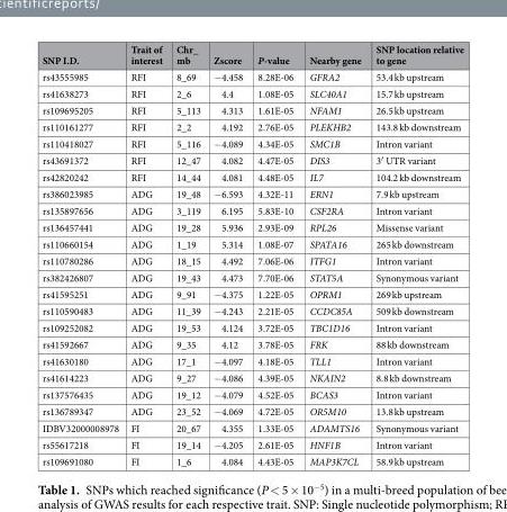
<table><thead><tr><td>SNP I.D.</td><td>Trait of interest</td><td>Chr_ mb</td><td>Zscore</td><td>P-value</td><td>Nearby gene</td><td>SNP location relative to gene</td></tr></thead><tbody><tr><td>rs43555985</td><td>RFI</td><td>8_69</td><td>−4.458</td><td>8.28E-06</td><td>GFRA2</td><td>53.4 kb upstream</td></tr><tr><td>rs41638273</td><td>RFI</td><td>2_6</td><td>4.4</td><td>1.08E-05</td><td>SLC40A1</td><td>15.7 kb upstream</td></tr><tr><td>rs109695205</td><td>RFI</td><td>5_113</td><td>4.313</td><td>1.61E-05</td><td>NFAM1</td><td>26.5 kb upstream</td></tr><tr><td>rs110161277</td><td>RFI</td><td>2_2</td><td>4.192</td><td>2.76E-05</td><td>PLEKHB2</td><td>143.8 kb downstream</td></tr><tr><td>rs110418027</td><td>RFI</td><td>5_116</td><td>−4.089</td><td>4.34E-05</td><td>SMC1B</td><td>Intron variant</td></tr><tr><td>rs43691372</td><td>RFI</td><td>12_47</td><td>4.082</td><td>4.47E-05</td><td>DIS3</td><td>3′ UTR variant</td></tr><tr><td>rs42820242</td><td>RFI</td><td>14_44</td><td>4.081</td><td>4.48E-05</td><td>IL7</td><td>104.2 kb downstream</td></tr><tr><td>rs386023985</td><td>ADG</td><td>19_48</td><td>−6.593</td><td>4.32E-11</td><td>ERN1</td><td>7.9 kb upstream</td></tr><tr><td>rs135897656</td><td>ADG</td><td>3_119</td><td>6.195</td><td>5.83E-10</td><td>CSF2RA</td><td>Intron variant</td></tr><tr><td>rs136457441</td><td>ADG</td><td>19_28</td><td>5.936</td><td>2.93E-09</td><td>RPL26</td><td>Missense variant</td></tr><tr><td>rs110660154</td><td>ADG</td><td>1_19</td><td>5.314</td><td>1.08E-07</td><td>SPATA16</td><td>265 kb downstream</td></tr><tr><td>rs110780286</td><td>ADG</td><td>18_15</td><td>4.492</td><td>7.06E-06</td><td>ITFG1</td><td>Intron variant</td></tr><tr><td>rs382426807</td><td>ADG</td><td>19_43</td><td>4.473</td><td>7.70E-06</td><td>STAT5A</td><td>Synonymous variant</td></tr><tr><td>rs41595251</td><td>ADG</td><td>9_91</td><td>−4.375</td><td>1.22E-05</td><td>OPRM1</td><td>269 kb upstream</td></tr><tr><td>rs110590483</td><td>ADG</td><td>11_39</td><td>−4.243</td><td>2.21E-05</td><td>CCDC85A</td><td>509 kb downstream</td></tr><tr><td>rs109252082</td><td>ADG</td><td>19_53</td><td>4.124</td><td>3.72E-05</td><td>TBC1D16</td><td>Intron variant</td></tr><tr><td>rs41592667</td><td>ADG</td><td>9_35</td><td>4.12</td><td>3.78E-05</td><td>FRK</td><td>88 kb downstream</td></tr><tr><td>rs41630180</td><td>ADG</td><td>17_1</td><td>−4.097</td><td>4.18E-05</td><td>TLL1</td><td>Intron variant</td></tr><tr><td>rs41614223</td><td>ADG</td><td>9_27</td><td>−4.086</td><td>4.39E-05</td><td>NKAIN2</td><td>8.8 kb downstream</td></tr><tr><td>rs137576435</td><td>ADG</td><td>19_12</td><td>−4.079</td><td>4.52E-05</td><td>BCAS3</td><td>Intron variant</td></tr><tr><td>rs136789347</td><td>ADG</td><td>23_52</td><td>−4.069</td><td>4.72E-05</td><td>OR5M10</td><td>13.8 kb upstream</td></tr><tr><td>IDBV32000008978</td><td>FI</td><td>20_67</td><td>4.355</td><td>1.33E-05</td><td>ADAMTS16</td><td>Synonymous variant</td></tr><tr><td>rs55617218</td><td>FI</td><td>19_14</td><td>−4.205</td><td>2.61E-05</td><td>HNF1B</td><td>Intron variant</td></tr><tr><td>rs109691080</td><td>FI</td><td>1_6</td><td>4.084</td><td>4.43E-05</td><td>MAP3K7CL</td><td>58.9 kb upstream</td></tr></tbody></table>